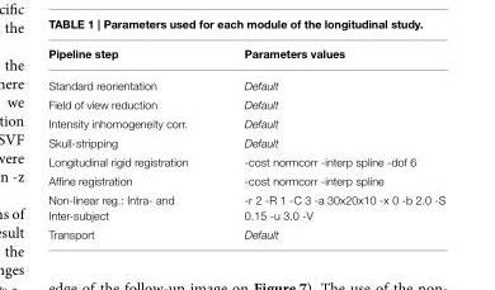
<table><thead><tr><td>Pipeline step</td><td>Parameters values</td></tr></thead><tbody><tr><td>Standard reorientation</td><td>Default</td></tr><tr><td>Field of view reduction</td><td>Default</td></tr><tr><td>Intensity inhomogeneity corr.</td><td>Default</td></tr><tr><td>Skull-stripping</td><td>Default</td></tr><tr><td>Longitudinal rigid registration</td><td>-cost normcorr -interp spline -dof 6</td></tr><tr><td>Affine registration</td><td>-cost normcorr -interp spline</td></tr><tr><td>Non-linear reg.: Intra- and Inter-subject</td><td>-r 2 -R 1 -C 3 -a 30x20x10 -x 0 -b 2.0 -S 0.15 -u 3.0 -V</td></tr><tr><td>Transport</td><td>Default</td></tr></tbody></table>